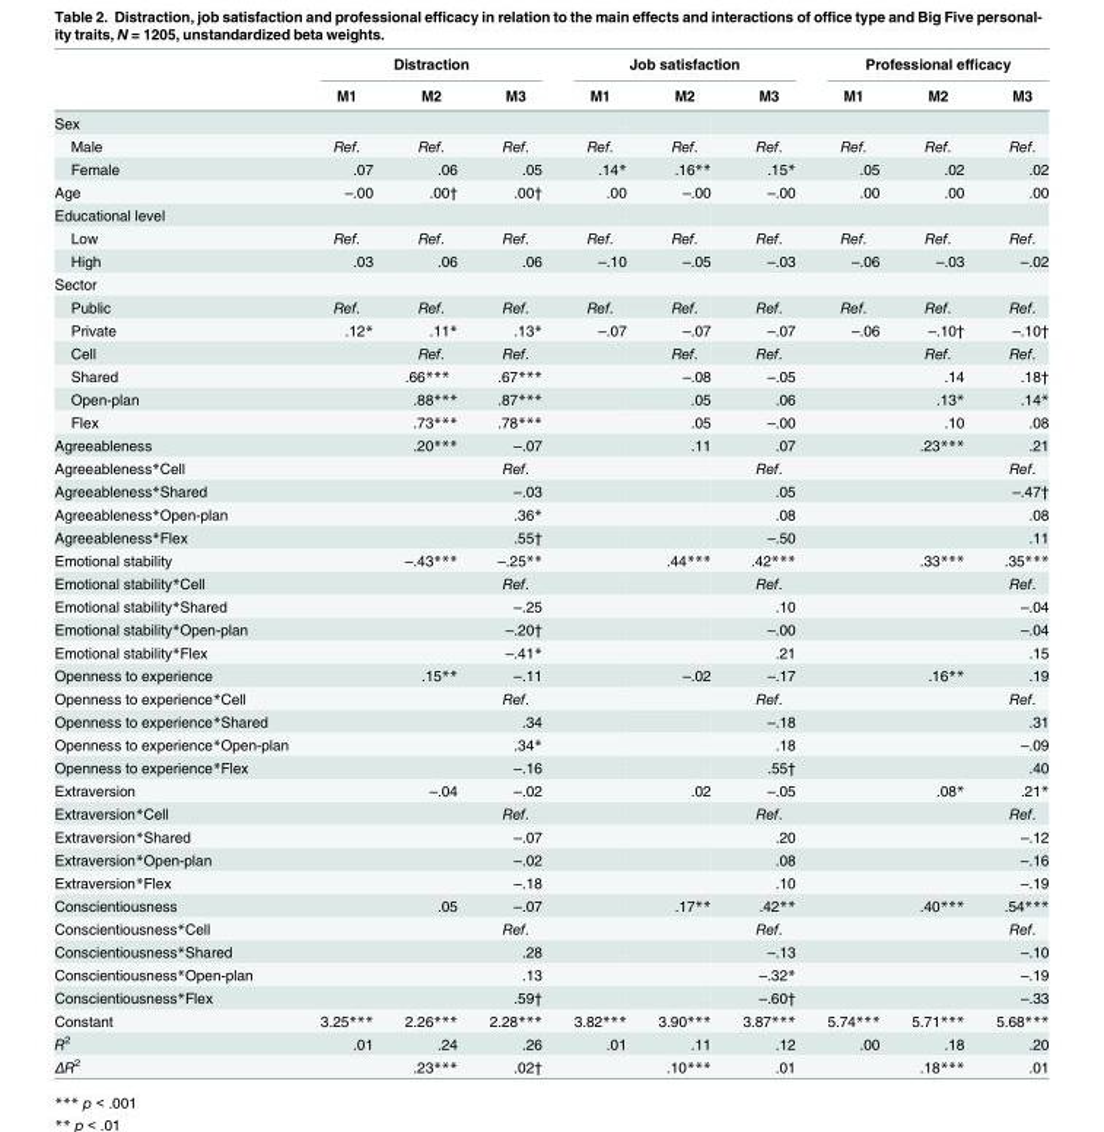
<table><thead><tr><td rowspan="2"></td><td colspan="3">Distraction</td><td colspan="3">Job satisfaction</td><td colspan="3">Professional efficacy</td></tr><tr><td>M1</td><td>M2</td><td>M3</td><td>M1</td><td>M2</td><td>M3</td><td>M1</td><td>M2</td><td>M3</td></tr></thead><tbody><tr><td colspan="10">Sex</td></tr><tr><td>Male</td><td>Ref.</td><td>Ref.</td><td>Ref.</td><td>Ref.</td><td>Ref.</td><td>Ref.</td><td>Ref.</td><td>Ref.</td><td>Ref.</td></tr><tr><td>Female</td><td>.07</td><td>.06</td><td>.05</td><td>.14*</td><td>.16**</td><td>.15*</td><td>.05</td><td>.02</td><td>.02</td></tr><tr><td>Age</td><td>–.00</td><td>.00†</td><td>.00†</td><td>.00</td><td>–.00</td><td>–.00</td><td>.00</td><td>.00</td><td>.00</td></tr><tr><td colspan="10">Educational level</td></tr><tr><td>Low</td><td>Ref.</td><td>Ref.</td><td>Ref.</td><td>Ref.</td><td>Ref.</td><td>Ref.</td><td>Ref.</td><td>Ref.</td><td>Ref.</td></tr><tr><td>High</td><td>.03</td><td>.06</td><td>.06</td><td>–.10</td><td>–.05</td><td>–.03</td><td>–.06</td><td>–.03</td><td>–.02</td></tr><tr><td colspan="10">Sector</td></tr><tr><td>Public</td><td>Ref.</td><td>Ref.</td><td>Ref.</td><td>Ref.</td><td>Ref.</td><td>Ref.</td><td>Ref.</td><td>Ref.</td><td>Ref.</td></tr><tr><td>Private</td><td>.12*</td><td>.11*</td><td>.13*</td><td>–.07</td><td>–.07</td><td>–.07</td><td>–.06</td><td>–.10†</td><td>–.10†</td></tr><tr><td>Cell</td><td></td><td>Ref.</td><td>Ref.</td><td></td><td>Ref.</td><td>Ref.</td><td></td><td>Ref.</td><td>Ref.</td></tr><tr><td>Shared</td><td></td><td>.66***</td><td>.67***</td><td></td><td>–.08</td><td>–.05</td><td></td><td>.14</td><td>.18†</td></tr><tr><td>Open-plan</td><td></td><td>.88***</td><td>.87***</td><td></td><td>.05</td><td>.06</td><td></td><td>.13*</td><td>.14*</td></tr><tr><td>Flex</td><td></td><td>.73***</td><td>.78***</td><td></td><td>.05</td><td>–.00</td><td></td><td>.10</td><td>.08</td></tr><tr><td>Agreeableness</td><td></td><td>.20***</td><td>–.07</td><td></td><td>.11</td><td>.07</td><td></td><td>.23***</td><td>.21</td></tr><tr><td>Agreeableness*Cell</td><td></td><td></td><td>Ref.</td><td></td><td></td><td>Ref.</td><td></td><td></td><td>Ref.</td></tr><tr><td>Agreeableness*Shared</td><td></td><td></td><td>–.03</td><td></td><td></td><td>.05</td><td></td><td></td><td>–.47†</td></tr><tr><td>Agreeableness*Open-plan</td><td></td><td></td><td>.36*</td><td></td><td></td><td>.08</td><td></td><td></td><td>.08</td></tr><tr><td>Agreeableness*Flex</td><td></td><td></td><td>.55†</td><td></td><td></td><td>–.50</td><td></td><td></td><td>.11</td></tr><tr><td>Emotional stability</td><td></td><td>–.43***</td><td>–.25**</td><td></td><td>.44***</td><td>.42***</td><td></td><td>.33***</td><td>.35***</td></tr><tr><td>Emotional stability*Cell</td><td></td><td></td><td>Ref.</td><td></td><td></td><td>Ref.</td><td></td><td></td><td>Ref.</td></tr><tr><td>Emotional stability*Shared</td><td></td><td></td><td>–.25</td><td></td><td></td><td>.10</td><td></td><td></td><td>–.04</td></tr><tr><td>Emotional stability*Open-plan</td><td></td><td></td><td>–.20†</td><td></td><td></td><td>–.00</td><td></td><td></td><td>–.04</td></tr><tr><td>Emotional stability*Flex</td><td></td><td></td><td>–.41*</td><td></td><td></td><td>.21</td><td></td><td></td><td>.15</td></tr><tr><td>Openness to experience</td><td></td><td>.15**</td><td>–.11</td><td></td><td>–.02</td><td>–.17</td><td></td><td>.16**</td><td>.19</td></tr><tr><td>Openness to experience*Cell</td><td></td><td></td><td>Ref.</td><td></td><td></td><td>Ref.</td><td></td><td></td><td>Ref.</td></tr><tr><td>Openness to experience*Shared</td><td></td><td></td><td>.34</td><td></td><td></td><td>–.18</td><td></td><td></td><td>.31</td></tr><tr><td>Openness to experience*Open-plan</td><td></td><td></td><td>.34*</td><td></td><td></td><td>.18</td><td></td><td></td><td>–.09</td></tr><tr><td>Openness to experience*Flex</td><td></td><td></td><td>–.16</td><td></td><td></td><td>.55†</td><td></td><td></td><td>.40</td></tr><tr><td>Extraversion</td><td></td><td>–.04</td><td>–.02</td><td></td><td>.02</td><td>–.05</td><td></td><td>.08*</td><td>.21*</td></tr><tr><td>Extraversion*Cell</td><td></td><td></td><td>Ref.</td><td></td><td></td><td>Ref.</td><td></td><td></td><td>Ref.</td></tr><tr><td>Extraversion*Shared</td><td></td><td></td><td>–.07</td><td></td><td></td><td>.20</td><td></td><td></td><td>–.12</td></tr><tr><td>Extraversion*Open-plan</td><td></td><td></td><td>–.02</td><td></td><td></td><td>.08</td><td></td><td></td><td>–.16</td></tr><tr><td>Extraversion*Flex</td><td></td><td></td><td>–.18</td><td></td><td></td><td>.10</td><td></td><td></td><td>–.19</td></tr><tr><td>Conscientiousness</td><td></td><td>.05</td><td>–.07</td><td></td><td>.17**</td><td>.42**</td><td></td><td>.40***</td><td>.54***</td></tr><tr><td>Conscientiousness*Cell</td><td></td><td></td><td>Ref.</td><td></td><td></td><td>Ref.</td><td></td><td></td><td>Ref.</td></tr><tr><td>Conscientiousness*Shared</td><td></td><td></td><td>.28</td><td></td><td></td><td>–.13</td><td></td><td></td><td>–.10</td></tr><tr><td>Conscientiousness*Open-plan</td><td></td><td></td><td>.13</td><td></td><td></td><td>–.32*</td><td></td><td></td><td>–.19</td></tr><tr><td>Conscientiousness*Flex</td><td></td><td></td><td>.59†</td><td></td><td></td><td>–.60†</td><td></td><td></td><td>–.33</td></tr><tr><td>Constant</td><td>3.25***</td><td>2.26***</td><td>2.28***</td><td>3.82***</td><td>3.90***</td><td>3.87***</td><td>5.74***</td><td>5.71***</td><td>5.68***</td></tr><tr><td>R<sup>2</sup></td><td>.01</td><td>.24</td><td>.26</td><td>.01</td><td>.11</td><td>.12</td><td>.00</td><td>.18</td><td>.20</td></tr><tr><td>ΔR2</td><td></td><td>.23***</td><td>.02†</td><td></td><td>.10***</td><td>.01</td><td></td><td>.18***</td><td>.01</td></tr></tbody></table>